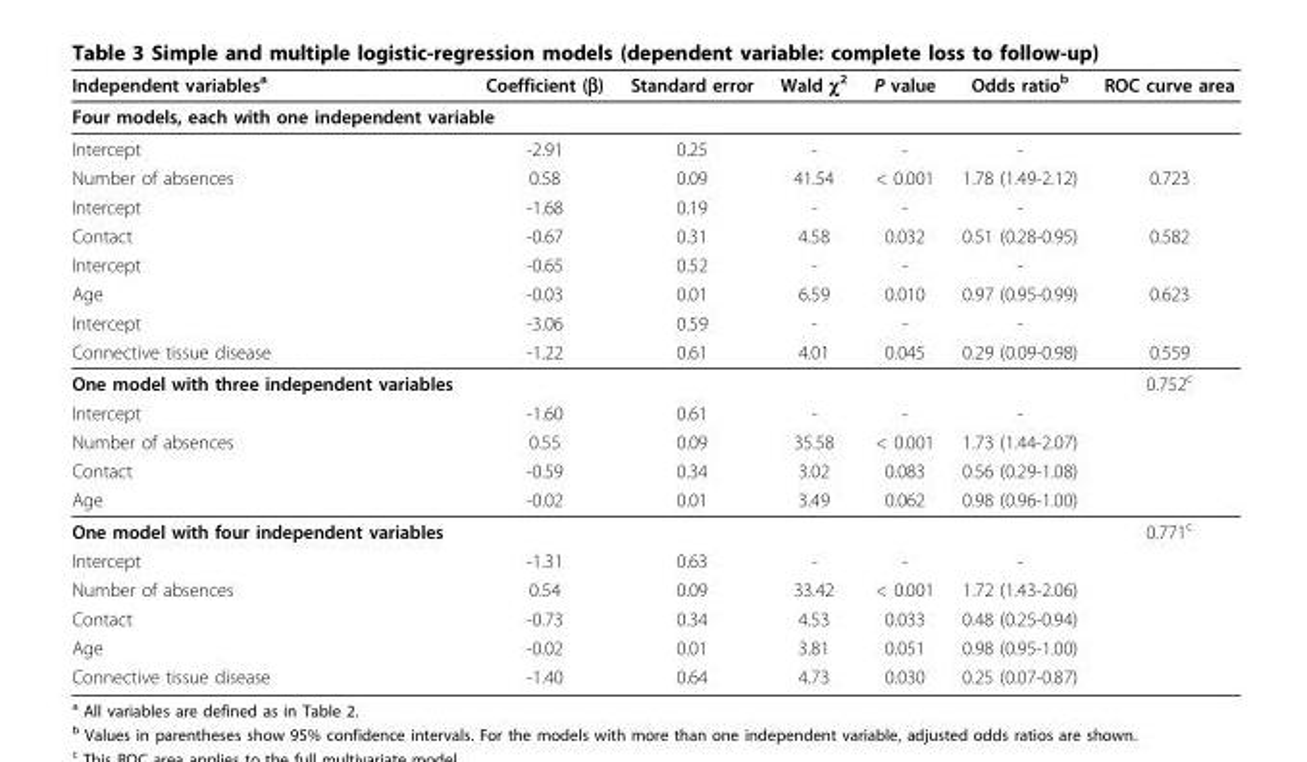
<table><thead><tr><td>Independent variables<sup>a</sup></td><td>Coefficient (β)</td><td>Standard error</td><td>Wald χ<sup>2</sup></td><td>P value</td><td>Odds ratio<sup>b</sup></td><td>ROC curve area</td></tr></thead><tbody><tr><td colspan="7">Four models, each with one independent variable</td></tr><tr><td>Intercept</td><td>-2.91</td><td>0.25</td><td>-</td><td>-</td><td>-</td><td></td></tr><tr><td>Number of absences</td><td>0.58</td><td>0.09</td><td>41.54</td><td>&lt; 0.001</td><td>1.78 (1.49-2.12)</td><td>0.723</td></tr><tr><td>Intercept</td><td>-1.68</td><td>0.19</td><td>-</td><td>-</td><td>-</td><td></td></tr><tr><td>Contact</td><td>-0.67</td><td>0.31</td><td>4.58</td><td>0.032</td><td>0.51 (0.28-0.95)</td><td>0.582</td></tr><tr><td>Intercept</td><td>-0.65</td><td>0.52</td><td>-</td><td>-</td><td>-</td><td></td></tr><tr><td>Age</td><td>-0.03</td><td>0.01</td><td>6.59</td><td>0.010</td><td>0.97 (0.95-0.99)</td><td>0.623</td></tr><tr><td>Intercept</td><td>-3.06</td><td>0.59</td><td>-</td><td>-</td><td>-</td><td></td></tr><tr><td>Connective tissue disease</td><td>-1.22</td><td>0.61</td><td>4.01</td><td>0.045</td><td>0.29 (0.09-0.98)</td><td>0.559</td></tr><tr><td>One model with three independent variables</td><td></td><td></td><td></td><td></td><td></td><td>0.752<sup>c</sup></td></tr><tr><td>Intercept</td><td>-1.60</td><td>0.61</td><td>-</td><td>-</td><td>-</td><td></td></tr><tr><td>Number of absences</td><td>0.55</td><td>0.09</td><td>35.58</td><td>&lt; 0.001</td><td>1.73 (1.44-2.07)</td><td></td></tr><tr><td>Contact</td><td>-0.59</td><td>0.34</td><td>3.02</td><td>0.083</td><td>0.56 (0.29-1.08)</td><td></td></tr><tr><td>Age</td><td>-0.02</td><td>0.01</td><td>3.49</td><td>0.062</td><td>0.98 (0.96-1.00)</td><td></td></tr><tr><td>One model with four independent variables</td><td></td><td></td><td></td><td></td><td></td><td>0.771<sup>c</sup></td></tr><tr><td>Intercept</td><td>-1.31</td><td>0.63</td><td>-</td><td>-</td><td>-</td><td></td></tr><tr><td>Number of absences</td><td>0.54</td><td>0.09</td><td>33.42</td><td>&lt; 0.001</td><td>1.72 (1.43-2.06)</td><td></td></tr><tr><td>Contact</td><td>-0.73</td><td>0.34</td><td>4.53</td><td>0.033</td><td>0.48 (0.25-0.94)</td><td></td></tr><tr><td>Age</td><td>-0.02</td><td>0.01</td><td>3.81</td><td>0.051</td><td>0.98 (0.95-1.00)</td><td></td></tr><tr><td>Connective tissue disease</td><td>-1.40</td><td>0.64</td><td>4.73</td><td>0.030</td><td>0.25 (0.07-0.87)</td><td></td></tr></tbody></table>